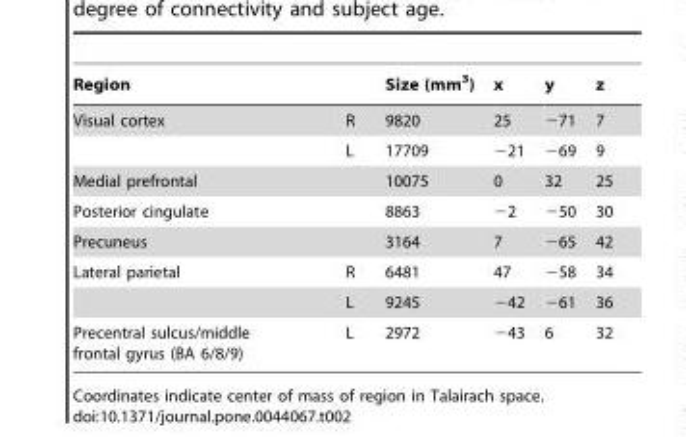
<table><thead><tr><td colspan="2">Region</td><td rowspan="2">Size (mm<sup>3</sup>) 9820</td><td rowspan="2">x 25</td><td rowspan="2">y −71</td><td rowspan="2">z 7</td></tr><tr><td>Visual cortex</td><td>R</td></tr></thead><tbody><tr><td></td><td>L</td><td>17709</td><td>−21</td><td>−69</td><td>9</td></tr><tr><td colspan="2">Medial prefrontal</td><td>10075</td><td>0</td><td>32</td><td>25</td></tr><tr><td colspan="2">Posterior cingulate</td><td>8863</td><td>−2</td><td>−50</td><td>30</td></tr><tr><td colspan="2">Precuneus</td><td>3164</td><td>7</td><td>−65</td><td>42</td></tr><tr><td rowspan="2">Lateral parietal</td><td>R</td><td>6481</td><td>47</td><td>−58</td><td>34</td></tr><tr><td>L</td><td>9245</td><td>−42</td><td>−61</td><td>36</td></tr><tr><td>Precentral sulcus/middle frontal gyrus (BA 6/8/9)</td><td>L</td><td>2972</td><td>−43</td><td>6</td><td>32</td></tr></tbody></table>